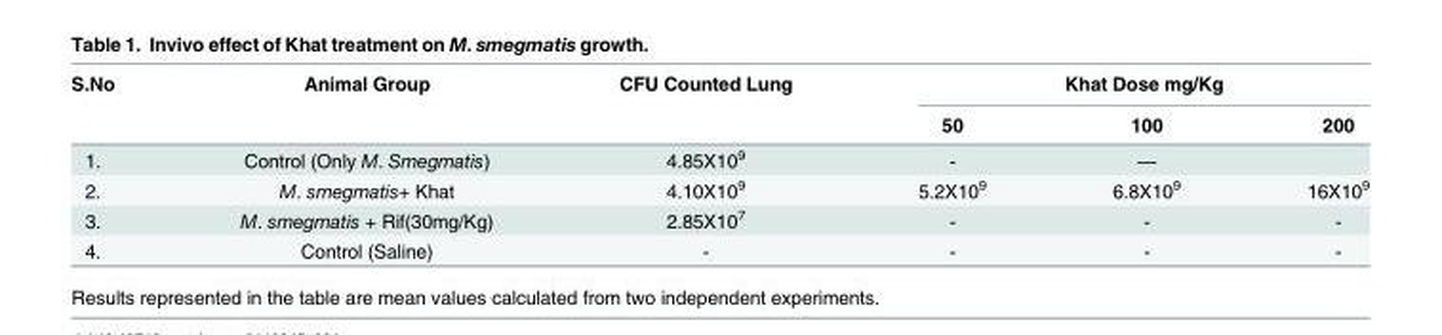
<table><thead><tr><td rowspan="2">S.No</td><td rowspan="2">Animal Group</td><td rowspan="2">CFU Counted Lung</td><td colspan="3">Khat Dose mg/Kg</td></tr><tr><td>50</td><td>100</td><td>200</td></tr></thead><tbody><tr><td>1.</td><td>Control (Only M. Smegmatis)</td><td>4.85X10<sup>9</sup></td><td>-</td><td>—</td><td></td></tr><tr><td>2.</td><td>M. smegmatis+ Khat</td><td>4.10X10<sup>9</sup></td><td>5.2X10<sup>9</sup></td><td>6.8X10<sup>9</sup></td><td>16X10<sup>9</sup></td></tr><tr><td>3.</td><td>M. smegmatis + Rif(30mg/Kg)</td><td>2.85X10<sup>7</sup></td><td>-</td><td>-</td><td>-</td></tr><tr><td>4.</td><td>Control (Saline)</td><td>-</td><td>-</td><td>-</td><td>-</td></tr></tbody></table>